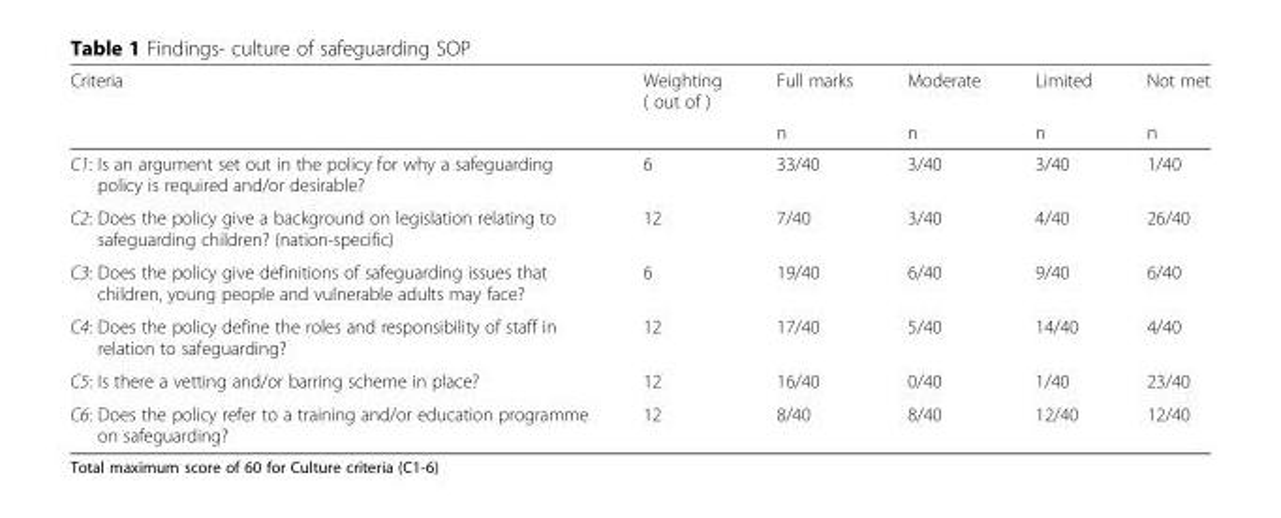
<table><thead><tr><td rowspan="2">Criteria</td><td rowspan="2">Weighting ( out of )</td><td rowspan="2">Full marks n</td><td rowspan="2">Moderate n</td><td rowspan="2">Limited n</td><td rowspan="2">Not met n</td></tr><tr></tr></thead><tbody><tr><td>C1: Is an argument set out in the policy for why a safeguarding policy is required and/or desirable?</td><td>6</td><td>33/40</td><td>3/40</td><td>3/40</td><td>1/40</td></tr><tr><td>C2: Does the policy give a background on legislation relating to safeguarding children? (nation-specific)</td><td>12</td><td>7/40</td><td>3/40</td><td>4/40</td><td>26/40</td></tr><tr><td>C3: Does the policy give definitions of safeguarding issues that children, young people and vulnerable adults may face?</td><td>6</td><td>19/40</td><td>6/40</td><td>9/40</td><td>6/40</td></tr><tr><td>C4: Does the policy define the roles and responsibility of staff in relation to safeguarding?</td><td>12</td><td>17/40</td><td>5/40</td><td>14/40</td><td>4/40</td></tr><tr><td>C5: Is there a vetting and/or barring scheme in place?</td><td>12</td><td>16/40</td><td>0/40</td><td>1/40</td><td>23/40</td></tr><tr><td>C6: Does the policy refer to a training and/or education programme on safeguarding?</td><td>12</td><td>8/40</td><td>8/40</td><td>12/40</td><td>12/40</td></tr></tbody></table>